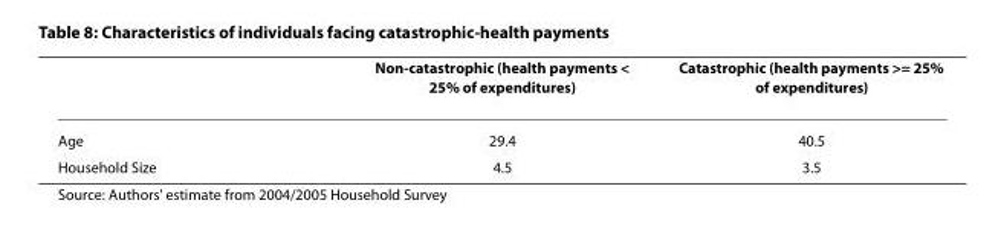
<table><thead><tr><td></td><td>Non-catastrophic (health payments &lt; 25% of expenditures)</td><td>Catastrophic (health payments &gt;= 25% of expenditures)</td></tr></thead><tbody><tr><td>Age</td><td>29.4</td><td>40.5</td></tr><tr><td>Household Size</td><td>4.5</td><td>3.5</td></tr></tbody></table>